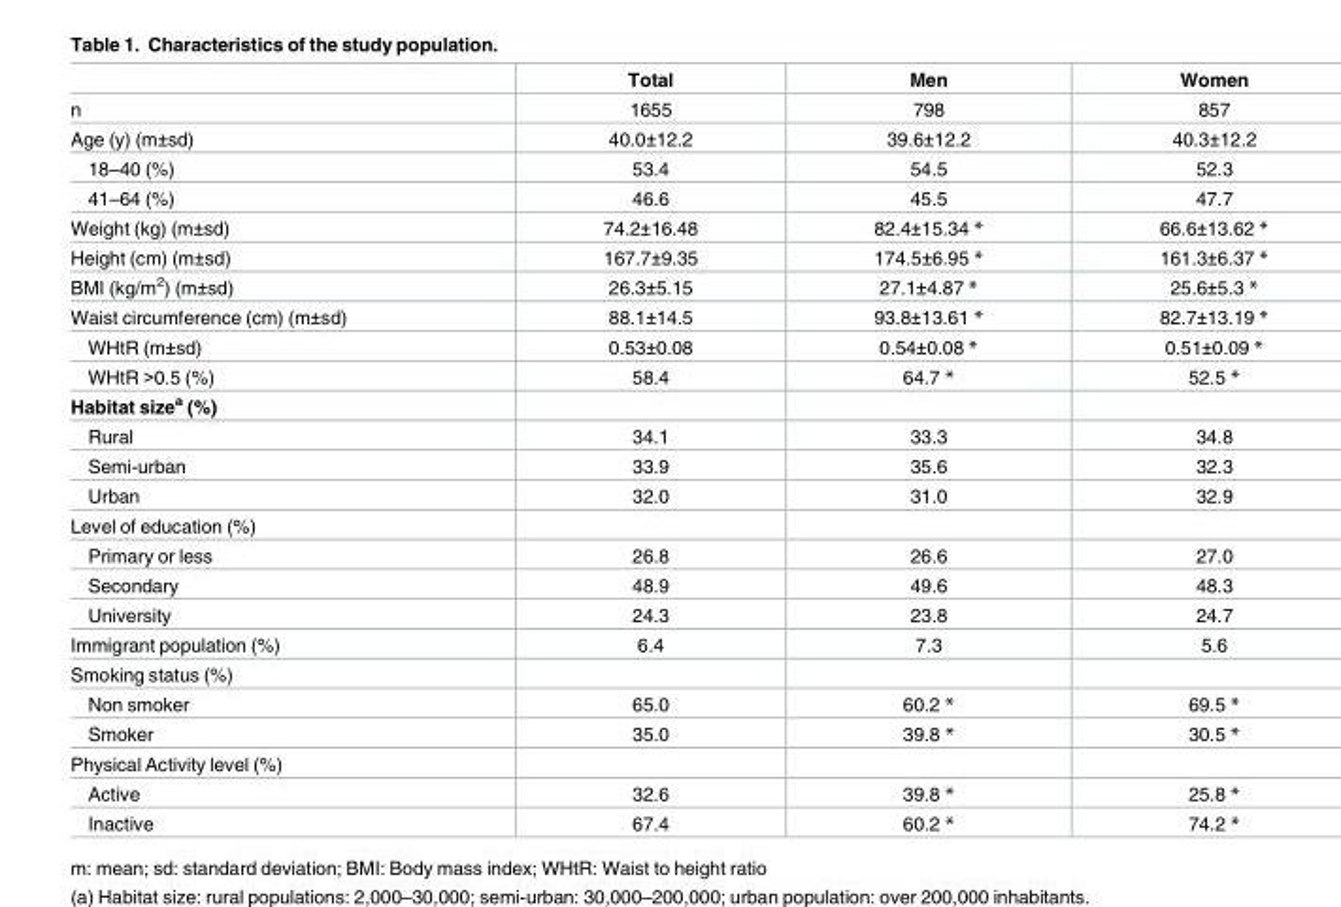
<table><thead><tr><td></td><td>Total</td><td>Men</td><td>Women</td></tr></thead><tbody><tr><td>n</td><td>1655</td><td>798</td><td>857</td></tr><tr><td>Age (y) (m±sd)</td><td>40.0±12.2</td><td>39.6±12.2</td><td>40.3±12.2</td></tr><tr><td>18–40 (%)</td><td>53.4</td><td>54.5</td><td>52.3</td></tr><tr><td>41–64 (%)</td><td>46.6</td><td>45.5</td><td>47.7</td></tr><tr><td>Weight (kg) (m±sd)</td><td>74.2±16.48</td><td>82.4±15.34 *</td><td>66.6±13.62 *</td></tr><tr><td>Height (cm) (m±sd)</td><td>167.7±9.35</td><td>174.5±6.95 *</td><td>161.3±6.37 *</td></tr><tr><td>BMI (kg/m<sup>2</sup>) (m±sd)</td><td>26.3±5.15</td><td>27.1±4.87 *</td><td>25.6±5.3 *</td></tr><tr><td>Waist circumference (cm) (m±sd)</td><td>88.1±14.5</td><td>93.8±13.61 *</td><td>82.7±13.19 *</td></tr><tr><td>WHtR (m±sd)</td><td>0.53±0.08</td><td>0.54±0.08 *</td><td>0.51±0.09 *</td></tr><tr><td>WHtR &gt;0.5 (%)</td><td>58.4</td><td>64.7 *</td><td>52.5 *</td></tr><tr><td colspan="4">Habitat size<sup>a</sup> (%)</td></tr><tr><td>Rural</td><td>34.1</td><td>33.3</td><td>34.8</td></tr><tr><td>Semi-urban</td><td>33.9</td><td>35.6</td><td>32.3</td></tr><tr><td>Urban</td><td>32.0</td><td>31.0</td><td>32.9</td></tr><tr><td colspan="4">Level of education (%)</td></tr><tr><td>Primary or less</td><td>26.8</td><td>26.6</td><td>27.0</td></tr><tr><td>Secondary</td><td>48.9</td><td>49.6</td><td>48.3</td></tr><tr><td>University</td><td>24.3</td><td>23.8</td><td>24.7</td></tr><tr><td>Immigrant population (%)</td><td>6.4</td><td>7.3</td><td>5.6</td></tr><tr><td colspan="4">Smoking status (%)</td></tr><tr><td>Non smoker</td><td>65.0</td><td>60.2 *</td><td>69.5 *</td></tr><tr><td>Smoker</td><td>35.0</td><td>39.8 *</td><td>30.5 *</td></tr><tr><td colspan="4">Physical Activity level (%)</td></tr><tr><td>Active</td><td>32.6</td><td>39.8 *</td><td>25.8 *</td></tr><tr><td>Inactive</td><td>67.4</td><td>60.2 *</td><td>74.2 *</td></tr></tbody></table>